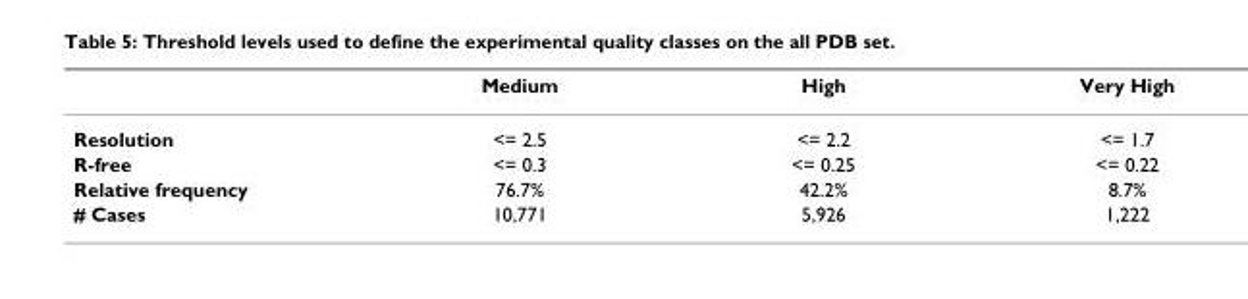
<table><thead><tr><td></td><td>Medium</td><td>High</td><td>Very High</td></tr></thead><tbody><tr><td>Resolution</td><td>&lt;= 2.5</td><td>&lt;= 2.2</td><td>&lt;= 1.7</td></tr><tr><td>R-free</td><td>&lt;= 0.3</td><td>&lt;= 0.25</td><td>&lt;= 0.22</td></tr><tr><td>Relative frequency</td><td>76.7%</td><td>42.2%</td><td>8.7%</td></tr><tr><td># Cases</td><td>10,771</td><td>5,926</td><td>1,222</td></tr></tbody></table>